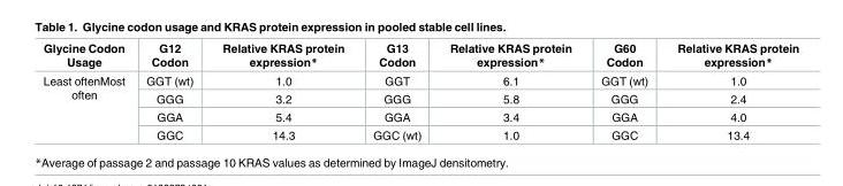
<table><thead><tr><td>Glycine Codon Usage</td><td>G12 Codon</td><td>Relative KRAS protein expression*</td><td>G13 Codon</td><td>Relative KRAS protein expression*</td><td>G60 Codon</td><td>Relative KRAS protein expression*</td></tr></thead><tbody><tr><td rowspan="4">Least oftenMost often</td><td>GGT (wt)</td><td>1.0</td><td>GGT</td><td>6.1</td><td>GGT (wt)</td><td>1.0</td></tr><tr><td>GGG</td><td>3.2</td><td>GGG</td><td>5.8</td><td>GGG</td><td>2.4</td></tr><tr><td>GGA</td><td>5.4</td><td>GGA</td><td>3.4</td><td>GGA</td><td>4.0</td></tr><tr><td>GGC</td><td>14.3</td><td>GGC (wt)</td><td>1.0</td><td>GGC</td><td>13.4</td></tr></tbody></table>